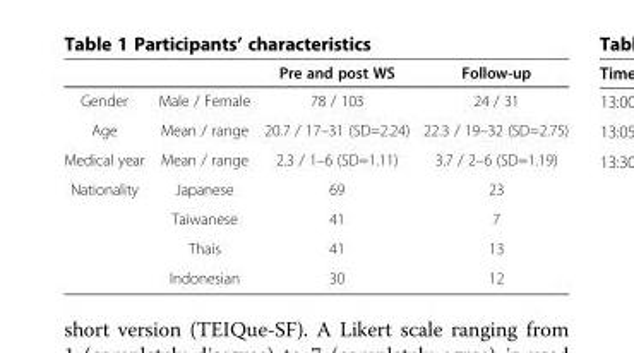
<table><thead><tr><td></td><td></td><td>Pre and post WS</td><td>Follow-up</td></tr></thead><tbody><tr><td>Gender</td><td>Male / Female</td><td>78 / 103</td><td>24 / 31</td></tr><tr><td>Age</td><td>Mean / range</td><td>20.7 / 17–31 (SD=2.24)</td><td>22.3 / 19–32 (SD=2.75)</td></tr><tr><td>Medical year</td><td>Mean / range</td><td>2.3 / 1–6 (SD=1.11)</td><td>3.7 / 2–6 (SD=1.19)</td></tr><tr><td rowspan="4">Nationality</td><td>Japanese</td><td>69</td><td>23</td></tr><tr><td>Taiwanese</td><td>41</td><td>7</td></tr><tr><td>Thais</td><td>41</td><td>13</td></tr><tr><td>Indonesian</td><td>30</td><td>12</td></tr></tbody></table>